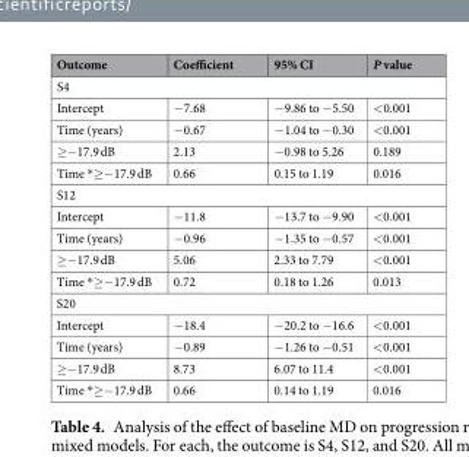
<table><thead><tr><td>Outcome</td><td>Coefficient</td><td>95% CI</td><td>P value</td></tr></thead><tbody><tr><td colspan="4">S4</td></tr><tr><td>Intercept</td><td>−7.68</td><td>−9.86 to −5.50</td><td>&lt;0.001</td></tr><tr><td>Time (years)</td><td>−0.67</td><td>−1.04 to −0.30</td><td>&lt;0.001</td></tr><tr><td>≥−17.9 dB</td><td>2.13</td><td>−0.98 to 5.26</td><td>0.189</td></tr><tr><td>Time *≥−17.9 dB</td><td>0.66</td><td>0.15 to 1.19</td><td>0.016</td></tr><tr><td colspan="4">S12</td></tr><tr><td>Intercept</td><td>−11.8</td><td>−13.7 to −9.90</td><td>&lt;0.001</td></tr><tr><td>Time (years)</td><td>−0.96</td><td>−1.35 to −0.57</td><td>&lt;0.001</td></tr><tr><td>≥−17.9 dB</td><td>5.06</td><td>2.33 to 7.79</td><td>&lt;0.001</td></tr><tr><td>Time *≥−17.9 dB</td><td>0.72</td><td>0.18 to 1.26</td><td>0.013</td></tr><tr><td colspan="4">S20</td></tr><tr><td>Intercept</td><td>−18.4</td><td>−20.2 to −16.6</td><td>&lt;0.001</td></tr><tr><td>Time (years)</td><td>−0.89</td><td>−1.26 to −0.51</td><td>&lt;0.001</td></tr><tr><td>≥−17.9 dB</td><td>8.73</td><td>6.07 to 11.4</td><td>&lt;0.001</td></tr><tr><td>Time *≥−17.9 dB</td><td>0.66</td><td>0.14 to 1.19</td><td>0.016</td></tr></tbody></table>